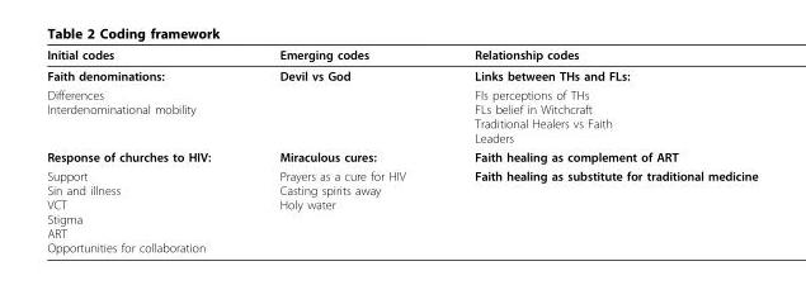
<table><thead><tr><td>Initial codes</td><td>Emerging codes</td><td>Relationship codes</td></tr></thead><tbody><tr><td>Faith denominations:</td><td>Devil vs God</td><td>Links between THs and FLs:</td></tr><tr><td>Differences Interdenominational mobility</td><td></td><td>Fls perceptions of THs FLs belief in Witchcraft Traditional Healers vs Faith Leaders</td></tr><tr><td>Response of churches to HIV:</td><td>Miraculous cures:</td><td>Faith healing as complement of ART</td></tr><tr><td>Support Sin and illness VCT Stigma ART Opportunities for collaboration</td><td>Prayers as a cure for HIV Casting spirits away Holy water</td><td>Faith healing as substitute for traditional medicine</td></tr></tbody></table>